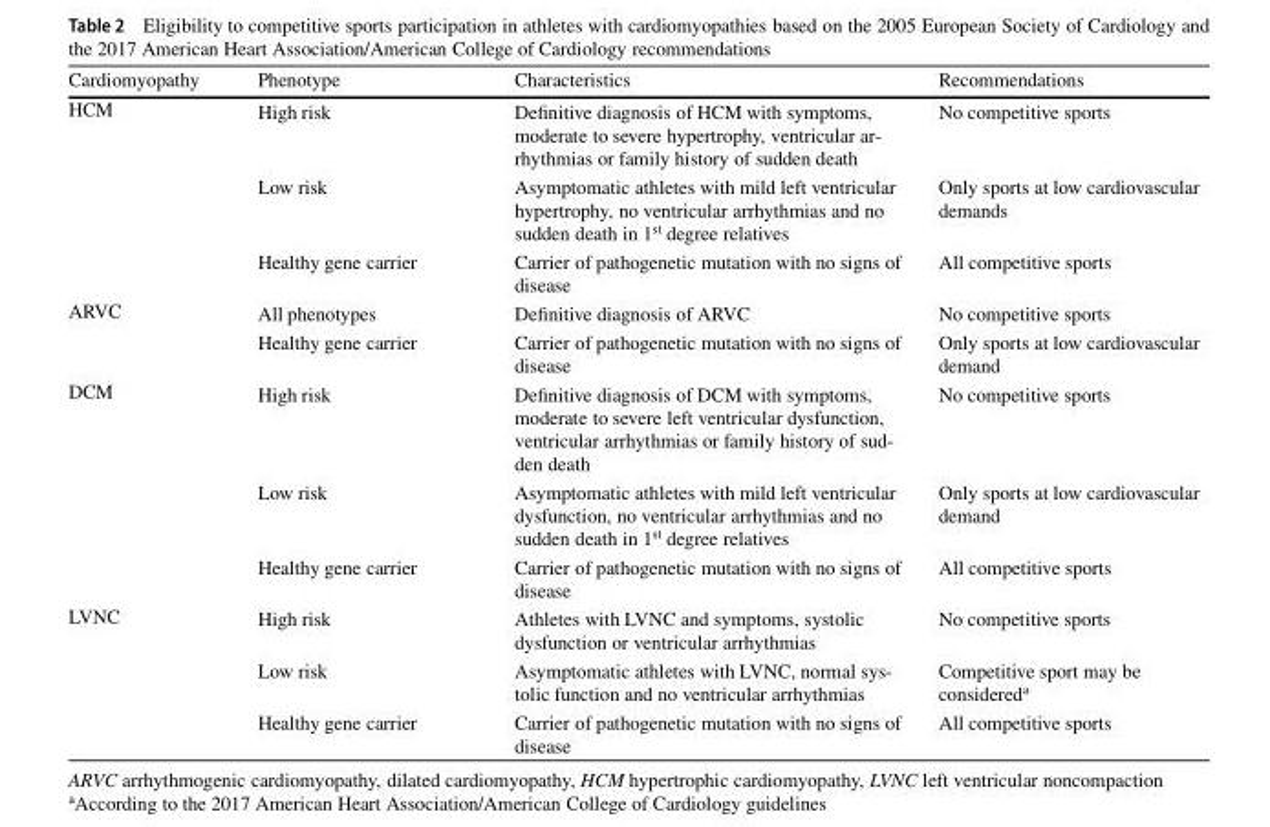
<table><thead><tr><td>Cardiomyopathy</td><td>Phenotype</td><td>Characteristics</td><td>Recommendations</td></tr></thead><tbody><tr><td rowspan="3">HCM</td><td>High risk</td><td>Definitive diagnosis of HCM with symptoms, moderate to severe hypertrophy, ventricular ar- rhythmias or family history of sudden death</td><td>No competitive sports</td></tr><tr><td>Low risk</td><td>Asymptomatic athletes with mild left ventricular hypertrophy, no ventricular arrhythmias and no sudden death in 1<sup>st</sup> degree relatives</td><td>Only sports at low cardiovascular demands</td></tr><tr><td>Healthy gene carrier</td><td>Carrier of pathogenetic mutation with no signs of disease</td><td>All competitive sports</td></tr><tr><td rowspan="2">ARVC</td><td>All phenotypes</td><td>Definitive diagnosis of ARVC</td><td>No competitive sports</td></tr><tr><td>Healthy gene carrier</td><td>Carrier of pathogenetic mutation with no signs of disease</td><td>Only sports at low cardiovascular demand</td></tr><tr><td rowspan="3">DCM</td><td>High risk</td><td>Definitive diagnosis of DCM with symptoms, moderate to severe left ventricular dysfunction, ventricular arrhythmias or family history of sud- den death</td><td>No competitive sports</td></tr><tr><td>Low risk</td><td>Asymptomatic athletes with mild left ventricular dysfunction, no ventricular arrhythmias and no sudden death in 1<sup>st</sup> degree relatives</td><td>Only sports at low cardiovascular demand</td></tr><tr><td>Healthy gene carrier</td><td>Carrier of pathogenetic mutation with no signs of disease</td><td>All competitive sports</td></tr><tr><td rowspan="3">LVNC</td><td>High risk</td><td>Athletes with LVNC and symptoms, systolic dysfunction or ventricular arrhythmias</td><td>No competitive sports</td></tr><tr><td>Low risk</td><td>Asymptomatic athletes with LVNC, normal sys- tolic function and no ventricular arrhythmias</td><td>Competitive sport may be considered<sup>a</sup></td></tr><tr><td>Healthy gene carrier</td><td>Carrier of pathogenetic mutation with no signs of disease</td><td>All competitive sports</td></tr></tbody></table>